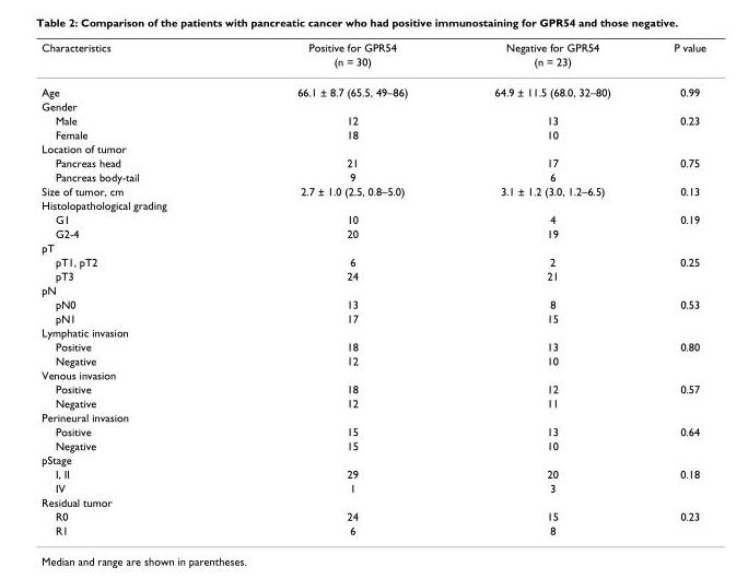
<table><thead><tr><td rowspan="2">Characteristics</td><td rowspan="2">Positive for GPR54 (n = 30)</td><td rowspan="2">Negative for GPR54 (n = 23)</td><td rowspan="2">P value</td></tr><tr></tr></thead><tbody><tr><td>Age</td><td>66.1 ± 8.7 (65.5, 49–86)</td><td>64.9 ± 11.5 (68.0, 32–80)</td><td>0.99</td></tr><tr><td colspan="4">Gender</td></tr><tr><td>Male</td><td>12</td><td>13</td><td>0.23</td></tr><tr><td>Female</td><td>18</td><td>10</td><td></td></tr><tr><td colspan="4">Location of tumor</td></tr><tr><td>Pancreas head</td><td>21</td><td>17</td><td>0.75</td></tr><tr><td>Pancreas body-tail</td><td>9</td><td>6</td><td></td></tr><tr><td>Size of tumor, cm</td><td>2.7 ± 1.0 (2.5, 0.8–5.0)</td><td>3.1 ± 1.2 (3.0, 1.2–6.5)</td><td>0.13</td></tr><tr><td colspan="4">Histolopathological grading</td></tr><tr><td>G1</td><td>10</td><td>4</td><td>0.19</td></tr><tr><td>G2-4</td><td>20</td><td>19</td><td></td></tr><tr><td colspan="4">pT</td></tr><tr><td>pT1, pT2</td><td>6</td><td>2</td><td>0.25</td></tr><tr><td>pT3</td><td>24</td><td>21</td><td></td></tr><tr><td colspan="4">pN</td></tr><tr><td>pN0</td><td>13</td><td>8</td><td>0.53</td></tr><tr><td>pN1</td><td>17</td><td>15</td><td></td></tr><tr><td colspan="4">Lymphatic invasion</td></tr><tr><td>Positive</td><td>18</td><td>13</td><td>0.80</td></tr><tr><td>Negative</td><td>12</td><td>10</td><td></td></tr><tr><td colspan="4">Venous invasion</td></tr><tr><td>Positive</td><td>18</td><td>12</td><td>0.57</td></tr><tr><td>Negative</td><td>12</td><td>11</td><td></td></tr><tr><td colspan="4">Perineural invasion</td></tr><tr><td>Positive</td><td>15</td><td>13</td><td>0.64</td></tr><tr><td>Negative</td><td>15</td><td>10</td><td></td></tr><tr><td colspan="4">pStage</td></tr><tr><td>I, II</td><td>29</td><td>20</td><td>0.18</td></tr><tr><td>IV</td><td>1</td><td>3</td><td></td></tr><tr><td colspan="4">Residual tumor</td></tr><tr><td>R0</td><td>24</td><td>15</td><td>0.23</td></tr><tr><td>R1</td><td>6</td><td>8</td><td></td></tr></tbody></table>